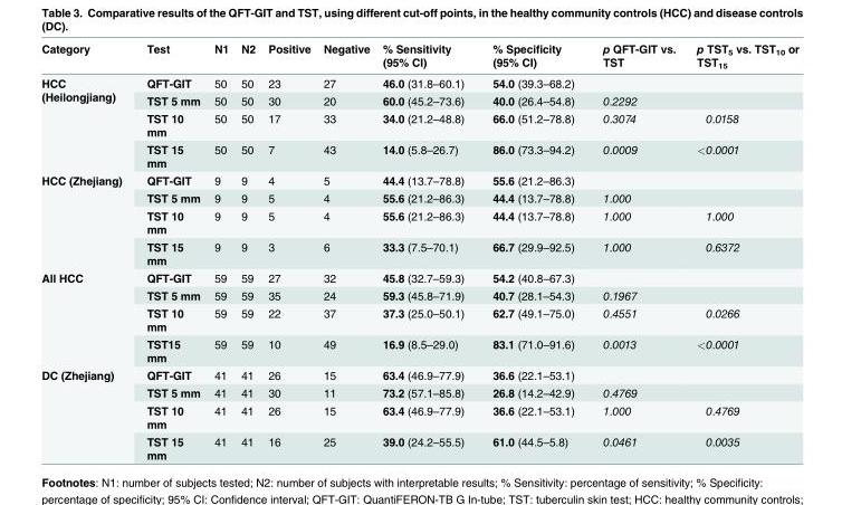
<table><thead><tr><td>Category</td><td>Test</td><td>N1</td><td>N2</td><td>Positive</td><td>Negative</td><td>% Sensitivity (95% CI)</td><td>% Specificity (95% CI)</td><td>p QFT-GIT vs. TST</td><td>p TST<sub>5</sub> vs. TST<sub>10</sub> or TST<sub>15</sub></td></tr></thead><tbody><tr><td rowspan="4">HCC (Heilongjiang)</td><td>QFT-GIT</td><td>50</td><td>50</td><td>23</td><td>27</td><td>46.0 (31.8–60.1)</td><td>54.0 (39.3–68.2)</td><td></td><td></td></tr><tr><td>TST 5 mm</td><td>50</td><td>50</td><td>30</td><td>20</td><td>60.0 (45.2–73.6)</td><td>40.0 (26.4–54.8)</td><td>0.2292</td><td></td></tr><tr><td>TST 10 mm</td><td>50</td><td>50</td><td>17</td><td>33</td><td>34.0 (21.2–48.8)</td><td>66.0 (51.2–78.8)</td><td>0.3074</td><td>0.0158</td></tr><tr><td>TST 15 mm</td><td>50</td><td>50</td><td>7</td><td>43</td><td>14.0 (5.8–26.7)</td><td>86.0 (73.3–94.2)</td><td>0.0009</td><td>&lt;0.0001</td></tr><tr><td rowspan="4">HCC (Zhejiang)</td><td>QFT-GIT</td><td>9</td><td>9</td><td>4</td><td>5</td><td>44.4 (13.7–78.8)</td><td>55.6 (21.2–86.3)</td><td></td><td></td></tr><tr><td>TST 5 mm</td><td>9</td><td>9</td><td>5</td><td>4</td><td>55.6 (21.2–86.3)</td><td>44.4 (13.7–78.8)</td><td>1.000</td><td></td></tr><tr><td>TST 10 mm</td><td>9</td><td>9</td><td>5</td><td>4</td><td>55.6 (21.2–86.3)</td><td>44.4 (13.7–78.8)</td><td>1.000</td><td>1.000</td></tr><tr><td>TST 15 mm</td><td>9</td><td>9</td><td>3</td><td>6</td><td>33.3 (7.5–70.1)</td><td>66.7 (29.9–92.5)</td><td>1.000</td><td>0.6372</td></tr><tr><td rowspan="4">All HCC</td><td>QFT-GIT</td><td>59</td><td>59</td><td>27</td><td>32</td><td>45.8 (32.7–59.3)</td><td>54.2 (40.8–67.3)</td><td></td><td></td></tr><tr><td>TST 5 mm</td><td>59</td><td>59</td><td>35</td><td>24</td><td>59.3 (45.8–71.9)</td><td>40.7 (28.1–54.3)</td><td>0.1967</td><td></td></tr><tr><td>TST 10 mm</td><td>59</td><td>59</td><td>22</td><td>37</td><td>37.3 (25.0–50.1)</td><td>62.7 (49.1–75.0)</td><td>0.4551</td><td>0.0266</td></tr><tr><td>TST15 mm</td><td>59</td><td>59</td><td>10</td><td>49</td><td>16.9 (8.5–29.0)</td><td>83.1 (71.0–91.6)</td><td>0.0013</td><td>&lt;0.0001</td></tr><tr><td rowspan="4">DC (Zhejiang)</td><td>QFT-GIT</td><td>41</td><td>41</td><td>26</td><td>15</td><td>63.4 (46.9–77.9)</td><td>36.6 (22.1–53.1)</td><td></td><td></td></tr><tr><td>TST 5 mm</td><td>41</td><td>41</td><td>30</td><td>11</td><td>73.2 (57.1–85.8)</td><td>26.8 (14.2–42.9)</td><td>0.4769</td><td></td></tr><tr><td>TST 10 mm</td><td>41</td><td>41</td><td>26</td><td>15</td><td>63.4 (46.9–77.9)</td><td>36.6 (22.1–53.1)</td><td>1.000</td><td>0.4769</td></tr><tr><td>TST 15 mm</td><td>41</td><td>41</td><td>16</td><td>25</td><td>39.0 (24.2–55.5)</td><td>61.0 (44.5–5.8)</td><td>0.0461</td><td>0.0035</td></tr></tbody></table>